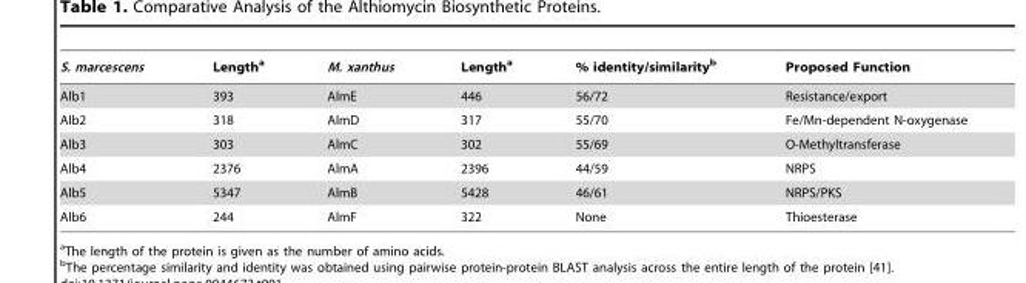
<table><thead><tr><td>S. marcescens</td><td>Length<sup>a</sup></td><td>M. xanthus</td><td>Length<sup>a</sup></td><td>% identity/similarity<sup>b</sup></td><td>Proposed Function</td></tr></thead><tbody><tr><td>Alb1</td><td>393</td><td>AlmE</td><td>446</td><td>56/72</td><td>Resistance/export</td></tr><tr><td>Alb2</td><td>318</td><td>AlmD</td><td>317</td><td>55/70</td><td>Fe/Mn-dependent N-oxygenase</td></tr><tr><td>Alb3</td><td>303</td><td>AlmC</td><td>302</td><td>55/69</td><td>O-Methyltransferase</td></tr><tr><td>Alb4</td><td>2376</td><td>AlmA</td><td>2396</td><td>44/59</td><td>NRPS</td></tr><tr><td>Alb5</td><td>5347</td><td>AlmB</td><td>5428</td><td>46/61</td><td>NRPS/PKS</td></tr><tr><td>Alb6</td><td>244</td><td>AlmF</td><td>322</td><td>None</td><td>Thioesterase</td></tr></tbody></table>